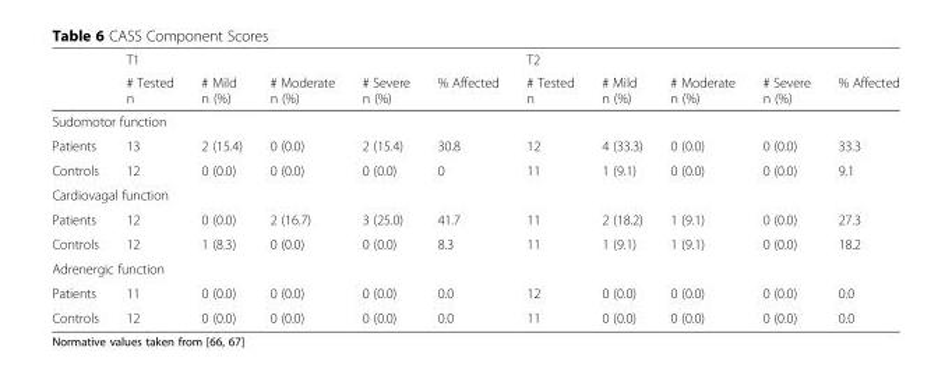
<table><thead><tr><td rowspan="2"></td><td colspan="5">T1</td><td colspan="5">T2</td></tr><tr><td># Tested n</td><td># Mild n (%)</td><td># Moderate n (%)</td><td># Severe n (%)</td><td>% Affected</td><td># Tested n</td><td># Mild n (%)</td><td># Moderate n (%)</td><td># Severe n (%)</td><td>% Affected</td></tr></thead><tbody><tr><td colspan="11">Sudomotor function</td></tr><tr><td>Patients</td><td>13</td><td>2 (15.4)</td><td>0 (0.0)</td><td>2 (15.4)</td><td>30.8</td><td>12</td><td>4 (33.3)</td><td>0 (0.0)</td><td>0 (0.0)</td><td>33.3</td></tr><tr><td>Controls</td><td>12</td><td>0 (0.0)</td><td>0 (0.0)</td><td>0 (0.0)</td><td>0</td><td>11</td><td>1 (9.1)</td><td>0 (0.0)</td><td>0 (0.0)</td><td>9.1</td></tr><tr><td colspan="11">Cardiovagal function</td></tr><tr><td>Patients</td><td>12</td><td>0 (0.0)</td><td>2 (16.7)</td><td>3 (25.0)</td><td>41.7</td><td>11</td><td>2 (18.2)</td><td>1 (9.1)</td><td>0 (0.0)</td><td>27.3</td></tr><tr><td>Controls</td><td>12</td><td>1 (8.3)</td><td>0 (0.0)</td><td>0 (0.0)</td><td>8.3</td><td>11</td><td>1 (9.1)</td><td>1 (9.1)</td><td>0 (0.0)</td><td>18.2</td></tr><tr><td colspan="11">Adrenergic function</td></tr><tr><td>Patients</td><td>11</td><td>0 (0.0)</td><td>0 (0.0)</td><td>0 (0.0)</td><td>0.0</td><td>12</td><td>0 (0.0)</td><td>0 (0.0)</td><td>0 (0.0)</td><td>0.0</td></tr><tr><td>Controls</td><td>12</td><td>0 (0.0)</td><td>0 (0.0)</td><td>0 (0.0)</td><td>0.0</td><td>11</td><td>0 (0.0)</td><td>0 (0.0)</td><td>0 (0.0)</td><td>0.0</td></tr></tbody></table>